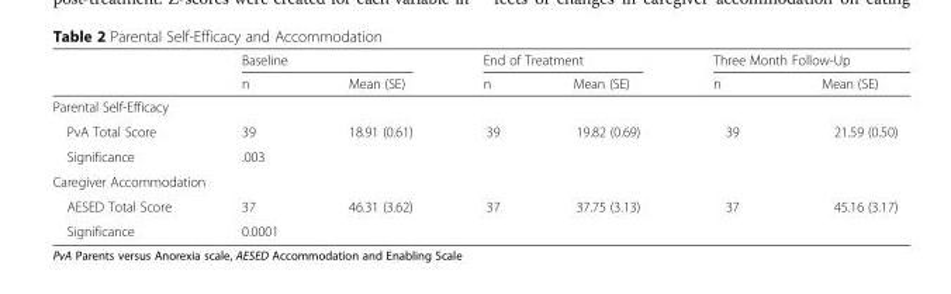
<table><thead><tr><td rowspan="2"></td><td colspan="2">Baseline</td><td colspan="2">End of Treatment</td><td colspan="2">Three Month Follow-Up</td></tr><tr><td>n</td><td>Mean (SE)</td><td>n</td><td>Mean (SE)</td><td>n</td><td>Mean (SE)</td></tr></thead><tbody><tr><td colspan="7">Parental Self-Efficacy</td></tr><tr><td>PvA Total Score</td><td>39</td><td>18.91 (0.61)</td><td>39</td><td>19.82 (0.69)</td><td>39</td><td>21.59 (0.50)</td></tr><tr><td>Significance</td><td>.003</td><td></td><td></td><td></td><td></td><td></td></tr><tr><td colspan="7">Caregiver Accommodation</td></tr><tr><td>AESED Total Score</td><td>37</td><td>46.31 (3.62)</td><td>37</td><td>37.75 (3.13)</td><td>37</td><td>45.16 (3.17)</td></tr><tr><td>Significance</td><td>0.0001</td><td></td><td></td><td></td><td></td><td></td></tr></tbody></table>